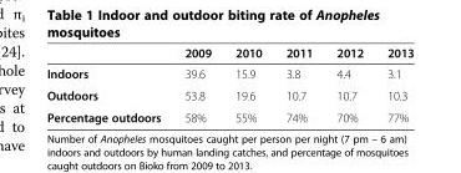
<table><thead><tr><td></td><td>2009</td><td>2010</td><td>2011</td><td>2012</td><td>2013</td></tr></thead><tbody><tr><td>Indoors</td><td>39.6</td><td>15.9</td><td>3.8</td><td>4.4</td><td>3.1</td></tr><tr><td>Outdoors</td><td>53.8</td><td>19.6</td><td>10.7</td><td>10.7</td><td>10.3</td></tr><tr><td>Percentage outdoors</td><td>58%</td><td>55%</td><td>74%</td><td>70%</td><td>77%</td></tr></tbody></table>